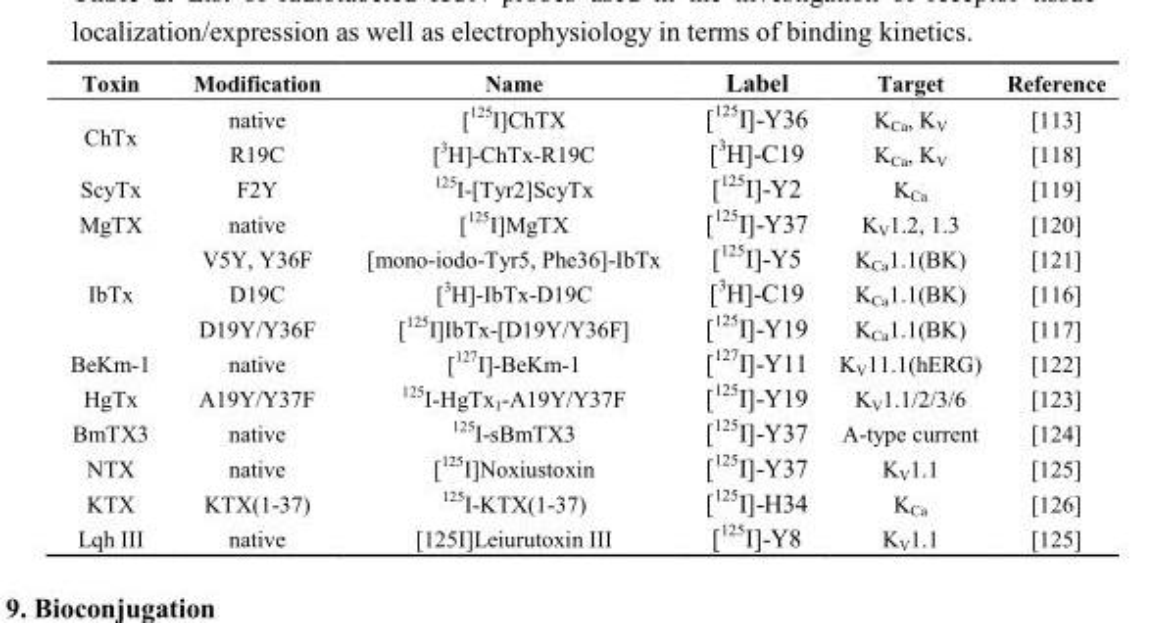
<table><thead><tr><td>Toxin</td><td>Modification</td><td>Name</td><td>Label</td><td>Target</td><td>Reference</td></tr></thead><tbody><tr><td rowspan="2">ChTx</td><td>native</td><td>[<sup>125</sup>I]ChTX</td><td>[<sup>125</sup>I]-Y36</td><td>K<sub>Ca</sub>, K<sub>V</sub></td><td>[113]</td></tr><tr><td>R19C</td><td>[<sup>3</sup>H]-ChTx-R19C</td><td>[<sup>3</sup>H]-C19</td><td>K<sub>Ca</sub>, K<sub>V</sub></td><td>[118]</td></tr><tr><td>ScyTx</td><td>F2Y</td><td><sup>125</sup>I-[Tyr2]ScyTx</td><td>[<sup>125</sup>I]-Y2</td><td>K<sub>Ca</sub></td><td>[119]</td></tr><tr><td>MgTX</td><td>native</td><td>[<sup>125</sup>I]MgTX</td><td>[<sup>125</sup>I]-Y37</td><td>K<sub>V</sub>1.2, 1.3</td><td>[120]</td></tr><tr><td rowspan="3">IbTx</td><td>V5Y, Y36F</td><td>[mono-iodo-Tyr5, Phe36]-IbTx</td><td>[<sup>125</sup>I]-Y5</td><td>K<sub>Ca</sub>1.1(BK)</td><td>[121]</td></tr><tr><td>D19C</td><td>[<sup>3</sup>H]-IbTx-D19C</td><td>[<sup>3</sup>H]-C19</td><td>K<sub>Ca</sub>1.1(BK)</td><td>[116]</td></tr><tr><td>D19Y/Y36F</td><td>[<sup>125</sup>I]IbTx-[D19Y/Y36F]</td><td>[<sup>125</sup>I]-Y19</td><td>K<sub>Ca</sub>1.1(BK)</td><td>[117]</td></tr><tr><td>BeKm-1</td><td>native</td><td>[<sup>127</sup>I]-BeKm-1</td><td>[<sup>127</sup>I]-Y11</td><td>K<sub>V</sub>11.1(hERG)</td><td>[122]</td></tr><tr><td>HgTx</td><td>A19Y/Y37F</td><td><sup>125</sup>I-HgTx<sub>1</sub>-A19Y/Y37F</td><td>[<sup>125</sup>I]-Y19</td><td>K<sub>V</sub>1.1/2/3/6</td><td>[123]</td></tr><tr><td>BmTX3</td><td>native</td><td><sup>125</sup>I-sBmTX3</td><td>[<sup>125</sup>I]-Y37</td><td>A-type current</td><td>[124]</td></tr><tr><td>NTX</td><td>native</td><td>[<sup>125</sup>I]Noxiustoxin</td><td>[<sup>125</sup>I]-Y37</td><td>K<sub>V</sub>1.1</td><td>[125]</td></tr><tr><td>KTX</td><td>KTX(1-37)</td><td><sup>125</sup>I-KTX(1-37)</td><td>[<sup>125</sup>I]-H34</td><td>K<sub>Ca</sub></td><td>[126]</td></tr><tr><td>Lqh III</td><td>native</td><td>[125I]Leiurutoxin III</td><td>[<sup>125</sup>I]-Y8</td><td>K<sub>V</sub>1.1</td><td>[125]</td></tr></tbody></table>